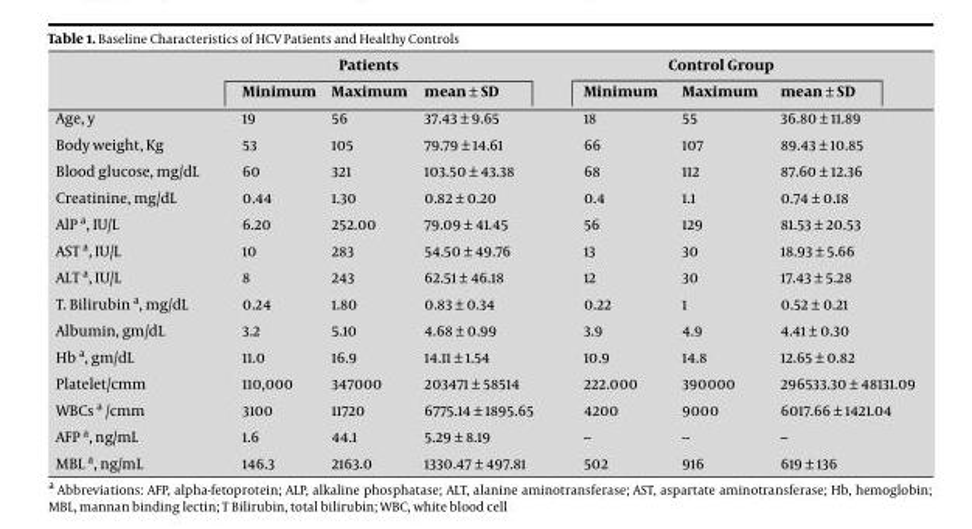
<table><thead><tr><td rowspan="2"></td><td colspan="3">Patients</td><td colspan="3">Control Group</td></tr><tr><td>Minimum</td><td>Maximum</td><td>mean ± SD</td><td>Minimum</td><td>Maximum</td><td>mean ± SD</td></tr></thead><tbody><tr><td>Age, y</td><td>19</td><td>56</td><td>37.43 ± 9.65</td><td>18</td><td>55</td><td>36.80 ± 11.89</td></tr><tr><td>Body weight, Kg</td><td>53</td><td>105</td><td>79.79 ± 14.61</td><td>66</td><td>107</td><td>89.43 ± 10.85</td></tr><tr><td>Blood glucose, mg/dL</td><td>60</td><td>321</td><td>103.50 ± 43.38</td><td>68</td><td>112</td><td>87.60 ± 12.36</td></tr><tr><td>Creatinine, mg/dL</td><td>0.44</td><td>1.30</td><td>0.82 ± 0.20</td><td>0.4</td><td>1.1</td><td>0.74 ± 0.18</td></tr><tr><td>AlP a, IU/L</td><td>6.20</td><td>252.00</td><td>79.09 ± 41.45</td><td>56</td><td>129</td><td>81.53 ± 20.53</td></tr><tr><td>AST a, IU/L</td><td>10</td><td>283</td><td>54.50 ± 49.76</td><td>13</td><td>30</td><td>18.93 ± 5.66</td></tr><tr><td>ALT a, IU/L</td><td>8</td><td>243</td><td>62.51 ± 46.18</td><td>12</td><td>30</td><td>17.43 ± 5.28</td></tr><tr><td>T. Bilirubin a, mg/dL</td><td>0.24</td><td>1.80</td><td>0.83 ± 0.34</td><td>0.22</td><td>1</td><td>0.52 ± 0.21</td></tr><tr><td>Albumin, gm/dL</td><td>3.2</td><td>5.10</td><td>4.68 ± 0.99</td><td>3.9</td><td>4.9</td><td>4.41 ± 0.30</td></tr><tr><td>Hb a, gm/dL</td><td>11.0</td><td>16.9</td><td>14.11 ± 1.54</td><td>10.9</td><td>14.8</td><td>12.65 ± 0.82</td></tr><tr><td>Platelet/cmm</td><td>110,000</td><td>347000</td><td>203471 ± 58514</td><td>222.000</td><td>390000</td><td>296533.30 ± 48131.09</td></tr><tr><td>WBCs a /cmm</td><td>3100</td><td>11720</td><td>6775.14 ± 1895.65</td><td>4200</td><td>9000</td><td>6017.66 ± 1421.04</td></tr><tr><td>AFP a, ng/mL</td><td>1.6</td><td>44.1</td><td>5.29 ± 8.19</td><td>--</td><td>--</td><td>--</td></tr><tr><td>MBL a, ng/mL</td><td>146.3</td><td>2163.0</td><td>1330.47 ± 497.81</td><td>502</td><td>916</td><td>619 ± 136</td></tr></tbody></table>